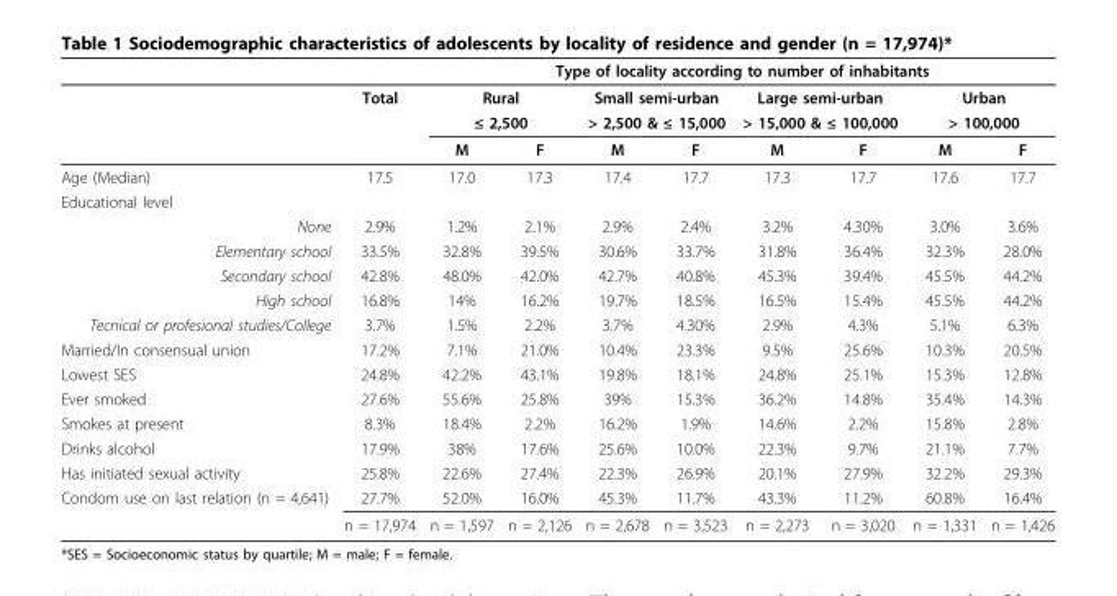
<table><thead><tr><td rowspan="4"></td><td rowspan="4">Total</td><td colspan="8">Type of locality according to number of inhabitants</td></tr><tr><td rowspan="2" colspan="2">Rural ≤ 2,500</td><td rowspan="2" colspan="2">Small semi-urban &gt; 2,500 &amp; ≤ 15,000</td><td rowspan="2" colspan="2">Large semi-urban &gt; 15,000 &amp; ≤ 100,000</td><td rowspan="2" colspan="2">Urban &gt; 100,000</td></tr><tr></tr><tr><td>M</td><td>F</td><td>M</td><td>F</td><td>M</td><td>F</td><td>M</td><td>F</td></tr></thead><tbody><tr><td>Age (Median)</td><td>17.5</td><td>17.0</td><td>17.3</td><td>17.4</td><td>17.7</td><td>17.3</td><td>17.7</td><td>17.6</td><td>17.7</td></tr><tr><td colspan="10">Educational level</td></tr><tr><td>None</td><td>2.9%</td><td>1.2%</td><td>2.1%</td><td>2.9%</td><td>2.4%</td><td>3.2%</td><td>4.30%</td><td>3.0%</td><td>3.6%</td></tr><tr><td>Elementary school</td><td>33.5%</td><td>32.8%</td><td>39.5%</td><td>30.6%</td><td>33.7%</td><td>31.8%</td><td>36.4%</td><td>32.3%</td><td>28.0%</td></tr><tr><td>Secondary school</td><td>42.8%</td><td>48.0%</td><td>42.0%</td><td>42.7%</td><td>40.8%</td><td>45.3%</td><td>39.4%</td><td>45.5%</td><td>44.2%</td></tr><tr><td>High school</td><td>16.8%</td><td>14%</td><td>16.2%</td><td>19.7%</td><td>18.5%</td><td>16.5%</td><td>15.4%</td><td>45.5%</td><td>44.2%</td></tr><tr><td>Tecnical or profesional studies/College</td><td>3.7%</td><td>1.5%</td><td>2.2%</td><td>3.7%</td><td>4.30%</td><td>2.9%</td><td>4.3%</td><td>5.1%</td><td>6.3%</td></tr><tr><td>Married/In consensual union</td><td>17.2%</td><td>7.1%</td><td>21.0%</td><td>10.4%</td><td>23.3%</td><td>9.5%</td><td>25.6%</td><td>10.3%</td><td>20.5%</td></tr><tr><td>Lowest SES</td><td>24.8%</td><td>42.2%</td><td>43.1%</td><td>19.8%</td><td>18.1%</td><td>24.8%</td><td>25.1%</td><td>15.3%</td><td>12.8%</td></tr><tr><td>Ever smoked</td><td>27.6%</td><td>55.6%</td><td>25.8%</td><td>39%</td><td>15.3%</td><td>36.2%</td><td>14.8%</td><td>35.4%</td><td>14.3%</td></tr><tr><td>Smokes at present</td><td>8.3%</td><td>18.4%</td><td>2.2%</td><td>16.2%</td><td>1.9%</td><td>14.6%</td><td>2.2%</td><td>15.8%</td><td>2.8%</td></tr><tr><td>Drinks alcohol</td><td>17.9%</td><td>38%</td><td>17.6%</td><td>25.6%</td><td>10.0%</td><td>22.3%</td><td>9.7%</td><td>21.1%</td><td>7.7%</td></tr><tr><td>Has initiated sexual activity</td><td>25.8%</td><td>22.6%</td><td>27.4%</td><td>22.3%</td><td>26.9%</td><td>20.1%</td><td>27.9%</td><td>32.2%</td><td>29.3%</td></tr><tr><td rowspan="2">Condom use on last relation (n = 4,641)</td><td>27.7%</td><td>52.0%</td><td>16.0%</td><td>45.3%</td><td>11.7%</td><td>43.3%</td><td>11.2%</td><td>60.8%</td><td>16.4%</td></tr><tr><td>n = 17,974</td><td>n = 1,597</td><td>n = 2,126</td><td>n = 2,678</td><td>n = 3,523</td><td>n = 2,273</td><td>n = 3,020</td><td>n = 1,331</td><td>n = 1,426</td></tr></tbody></table>